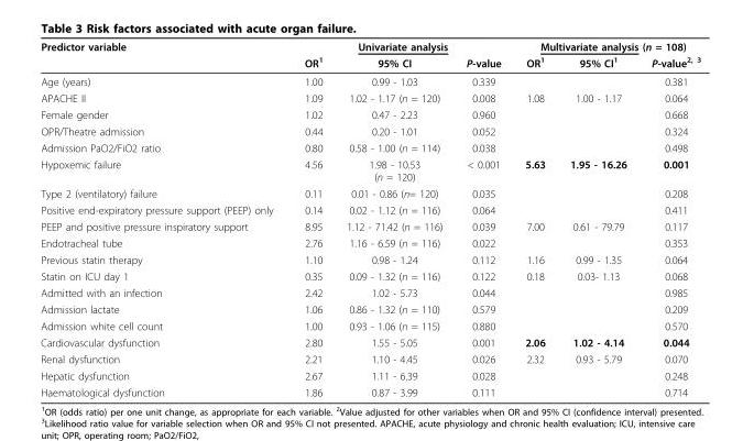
<table><thead><tr><td rowspan="2">Predictor variable</td><td colspan="3">Univariate analysis</td><td colspan="3">Multivariate analysis (n = 108)</td></tr><tr><td>OR<sup>1</sup></td><td>95% CI</td><td>P-value</td><td>OR<sup>1</sup></td><td>95% CI<sup>1</sup></td><td>P-value<sup>2, 3</sup></td></tr></thead><tbody><tr><td>Age (years)</td><td>1.00</td><td>0.99 - 1.03</td><td>0.339</td><td></td><td></td><td>0.381</td></tr><tr><td>APACHE II</td><td>1.09</td><td>1.02 - 1.17 (n = 120)</td><td>0.008</td><td>1.08</td><td>1.00 - 1.17</td><td>0.064</td></tr><tr><td>Female gender</td><td>1.02</td><td>0.47 - 2.23</td><td>0.960</td><td></td><td></td><td>0.668</td></tr><tr><td>OPR/Theatre admission</td><td>0.44</td><td>0.20 - 1.01</td><td>0.052</td><td></td><td></td><td>0.324</td></tr><tr><td>Admission PaO2/FiO2 ratio</td><td>0.80</td><td>0.58 - 1.00 (n = 114)</td><td>0.038</td><td></td><td></td><td>0.498</td></tr><tr><td>Hypoxemic failure</td><td>4.56</td><td>1.98 - 10.53 (n = 120)</td><td>&lt; 0.001</td><td>5.63</td><td>1.95 - 16.26</td><td>0.001</td></tr><tr><td>Type 2 (ventilatory) failure</td><td>0.11</td><td>0.01 - 0.86 (n= 120)</td><td>0.035</td><td></td><td></td><td>0.208</td></tr><tr><td>Positive end-expiratory pressure support (PEEP) only</td><td>0.14</td><td>0.02 - 1.12 (n = 116)</td><td>0.064</td><td></td><td></td><td>0.411</td></tr><tr><td>PEEP and positive pressure inspiratory support</td><td>8.95</td><td>1.12 - 71.42 (n = 116)</td><td>0.039</td><td>7.00</td><td>0.61 - 79.79</td><td>0.117</td></tr><tr><td>Endotracheal tube</td><td>2.76</td><td>1.16 - 6.59 (n = 116)</td><td>0.022</td><td></td><td></td><td>0.353</td></tr><tr><td>Previous statin therapy</td><td>1.10</td><td>0.98 - 1.24</td><td>0.112</td><td>1.16</td><td>0.99 - 1.35</td><td>0.064</td></tr><tr><td>Statin on ICU day 1</td><td>0.35</td><td>0.09 - 1.32 (n = 116)</td><td>0.122</td><td>0.18</td><td>0.03- 1.13</td><td>0.068</td></tr><tr><td>Admitted with an infection</td><td>2.42</td><td>1.02 - 5.73</td><td>0.044</td><td></td><td></td><td>0.985</td></tr><tr><td>Admission lactate</td><td>1.06</td><td>0.86 - 1.32 (n = 110)</td><td>0.579</td><td></td><td></td><td>0.209</td></tr><tr><td>Admission white cell count</td><td>1.00</td><td>0.93 - 1.06 (n = 115)</td><td>0.880</td><td></td><td></td><td>0.570</td></tr><tr><td>Cardiovascular dysfunction</td><td>2.80</td><td>1.55 - 5.05</td><td>0.001</td><td>2.06</td><td>1.02 - 4.14</td><td>0.044</td></tr><tr><td>Renal dysfunction</td><td>2.21</td><td>1.10 - 4.45</td><td>0.026</td><td>2.32</td><td>0.93 - 5.79</td><td>0.070</td></tr><tr><td>Hepatic dysfunction</td><td>2.67</td><td>1.11 - 6.39</td><td>0.028</td><td></td><td></td><td>0.248</td></tr><tr><td>Haematological dysfunction</td><td>1.86</td><td>0.87 - 3.99</td><td>0.111</td><td></td><td></td><td>0.714</td></tr></tbody></table>